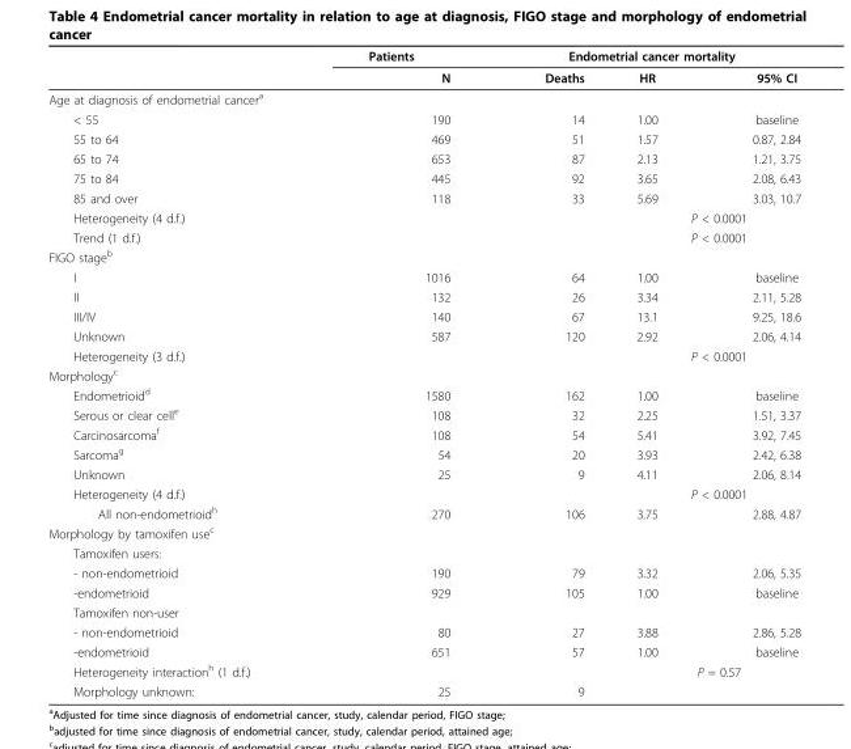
<table><thead><tr><td rowspan="2"></td><td rowspan="2">Patients N</td><td colspan="3">Endometrial cancer mortality</td></tr><tr><td>Deaths</td><td>HR</td><td>95% CI</td></tr></thead><tbody><tr><td colspan="5">Age at diagnosis of endometrial cancer<sup>a</sup></td></tr><tr><td>&lt; 55</td><td>190</td><td>14</td><td>1.00</td><td>baseline</td></tr><tr><td>55 to 64</td><td>469</td><td>51</td><td>1.57</td><td>0.87, 2.84</td></tr><tr><td>65 to 74</td><td>653</td><td>87</td><td>2.13</td><td>1.21, 3.75</td></tr><tr><td>75 to 84</td><td>445</td><td>92</td><td>3.65</td><td>2.08, 6.43</td></tr><tr><td>85 and over</td><td>118</td><td>33</td><td>5.69</td><td>3.03, 10.7</td></tr><tr><td>Heterogeneity (4 d.f.)</td><td></td><td></td><td colspan="2">P &lt; 0.0001</td></tr><tr><td>Trend (1 d.f.)</td><td></td><td></td><td colspan="2">P &lt; 0.0001</td></tr><tr><td colspan="5">FIGO stage<sup>b</sup></td></tr><tr><td>I</td><td>1016</td><td>64</td><td>1.00</td><td>baseline</td></tr><tr><td>II</td><td>132</td><td>26</td><td>3.34</td><td>2.11, 5.28</td></tr><tr><td>III/IV</td><td>140</td><td>67</td><td>13.1</td><td>9.25, 18.6</td></tr><tr><td>Unknown</td><td>587</td><td>120</td><td>2.92</td><td>2.06, 4.14</td></tr><tr><td>Heterogeneity (3 d.f.)</td><td></td><td></td><td colspan="2">P &lt; 0.0001</td></tr><tr><td colspan="5">Morphology<sup>c</sup></td></tr><tr><td>Endometrioid<sup>d</sup></td><td>1580</td><td>162</td><td>1.00</td><td>baseline</td></tr><tr><td>Serous or clear cell<sup>e</sup></td><td>108</td><td>32</td><td>2.25</td><td>1.51, 3.37</td></tr><tr><td>Carcinosarcoma<sup>f</sup></td><td>108</td><td>54</td><td>5.41</td><td>3.92, 7.45</td></tr><tr><td>Sarcoma<sup>g</sup></td><td>54</td><td>20</td><td>3.93</td><td>2.42, 6.38</td></tr><tr><td>Unknown</td><td>25</td><td>9</td><td>4.11</td><td>2.06, 8.14</td></tr><tr><td>Heterogeneity (4 d.f.)</td><td></td><td></td><td colspan="2">P &lt; 0.0001</td></tr><tr><td>All non-endometrioid<sup>h</sup></td><td>270</td><td>106</td><td>3.75</td><td>2.88, 4.87</td></tr><tr><td colspan="5">Morphology by tamoxifen use<sup>c</sup></td></tr><tr><td colspan="5">Tamoxifen users:</td></tr><tr><td>- non-endometrioid</td><td>190</td><td>79</td><td>3.32</td><td>2.06, 5.35</td></tr><tr><td>-endometrioid</td><td>929</td><td>105</td><td>1.00</td><td>baseline</td></tr><tr><td colspan="5">Tamoxifen non-user</td></tr><tr><td>- non-endometrioid</td><td>80</td><td>27</td><td>3.88</td><td>2.86, 5.28</td></tr><tr><td>-endometrioid</td><td>651</td><td>57</td><td>1.00</td><td>baseline</td></tr><tr><td>Heterogeneity interaction<sup>h</sup> (1 d.f.)</td><td></td><td></td><td colspan="2">P = 0.57</td></tr><tr><td>Morphology unknown:</td><td>25</td><td>9</td><td></td><td></td></tr></tbody></table>